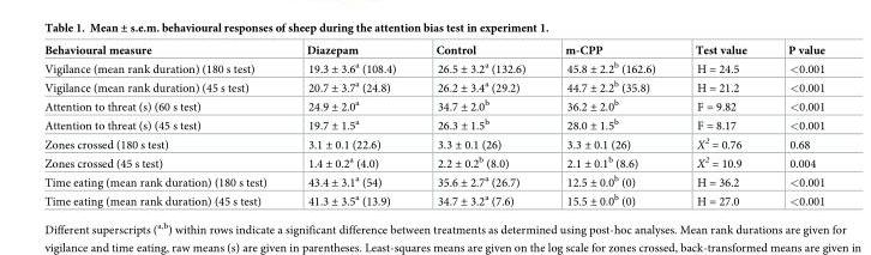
<table><thead><tr><td>Behavioural measure</td><td>Diazepam</td><td>Control</td><td>m-CPP</td><td>Test value</td><td>P value</td></tr></thead><tbody><tr><td>Vigilance (mean rank duration) (180 s test)</td><td>19.3 ± 3.6<sup>a</sup> (108.4)</td><td>26.5 ± 3.2<sup>a</sup> (132.6)</td><td>45.8 ± 2.2<sup>b</sup> (162.6)</td><td>H = 24.5</td><td>&lt;0.001</td></tr><tr><td>Vigilance (mean rank duration) (45 s test)</td><td>20.7 ± 3.7<sup>a</sup> (24.8)</td><td>26.2 ± 3.4<sup>a</sup> (29.2)</td><td>44.7 ± 2.2<sup>b</sup> (35.8)</td><td>H = 21.2</td><td>&lt;0.001</td></tr><tr><td>Attention to threat (s) (60 s test)</td><td>24.9 ± 2.0<sup>a</sup></td><td>34.7 ± 2.0<sup>b</sup></td><td>36.2 ± 2.0<sup>b</sup></td><td>F = 9.82</td><td>&lt;0.001</td></tr><tr><td>Attention to threat (s) (45 s test)</td><td>19.7 ± 1.5<sup>a</sup></td><td>26.3 ± 1.5<sup>b</sup></td><td>28.0 ± 1.5<sup>b</sup></td><td>F = 8.17</td><td>&lt;0.001</td></tr><tr><td>Zones crossed (180 s test)</td><td>3.1 ± 0.1 (22.6)</td><td>3.3 ± 0.1 (26)</td><td>3.3 ± 0.1 (26)</td><td>X<sup>2</sup> = 0.76</td><td>0.68</td></tr><tr><td>Zones crossed (45 s test)</td><td>1.4 ± 0.2<sup>a</sup> (4.0)</td><td>2.2 ± 0.2<sup>b</sup> (8.0)</td><td>2.1 ± 0.1<sup>b</sup> (8.6)</td><td>X<sup>2</sup> = 10.9</td><td>0.004</td></tr><tr><td>Time eating (mean rank duration) (180 s test)</td><td>43.4 ± 3.1<sup>a</sup> (54)</td><td>35.6 ± 2.7<sup>a</sup> (26.7)</td><td>12.5 ± 0.0<sup>b</sup> (0)</td><td>H = 36.2</td><td>&lt;0.001</td></tr><tr><td>Time eating (mean rank duration) (45 s test)</td><td>41.3 ± 3.5<sup>a</sup> (13.9)</td><td>34.7 ± 3.2<sup>a</sup> (7.6)</td><td>15.5 ± 0.0<sup>b</sup> (0)</td><td>H = 27.0</td><td>&lt;0.001</td></tr></tbody></table>